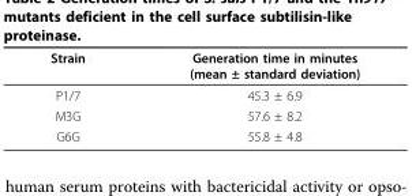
<table><thead><tr><td>Strain</td><td>Generation time in minutes (mean ± standard deviation)</td></tr></thead><tbody><tr><td>P1/7</td><td>45.3 ± 6.9</td></tr><tr><td>M3G</td><td>57.6 ± 8.2</td></tr><tr><td>G6G</td><td>55.8 ± 4.8</td></tr></tbody></table>